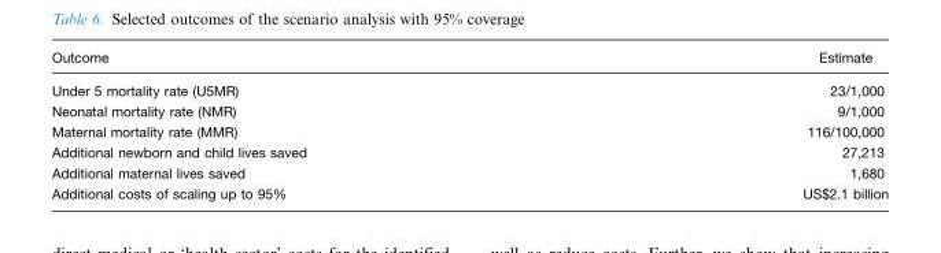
<table><thead><tr><td>Outcome</td><td>Estimate</td></tr></thead><tbody><tr><td>Under 5 mortality rate (U5MR)</td><td>23/1,000</td></tr><tr><td>Neonatal mortality rate (NMR)</td><td>9/1,000</td></tr><tr><td>Maternal mortality rate (MMR)</td><td>116/100,000</td></tr><tr><td>Additional newborn and child lives saved</td><td>27,213</td></tr><tr><td>Additional maternal lives saved</td><td>1,680</td></tr><tr><td>Additional costs of scaling up to 95%</td><td>US$2.1 billion</td></tr></tbody></table>